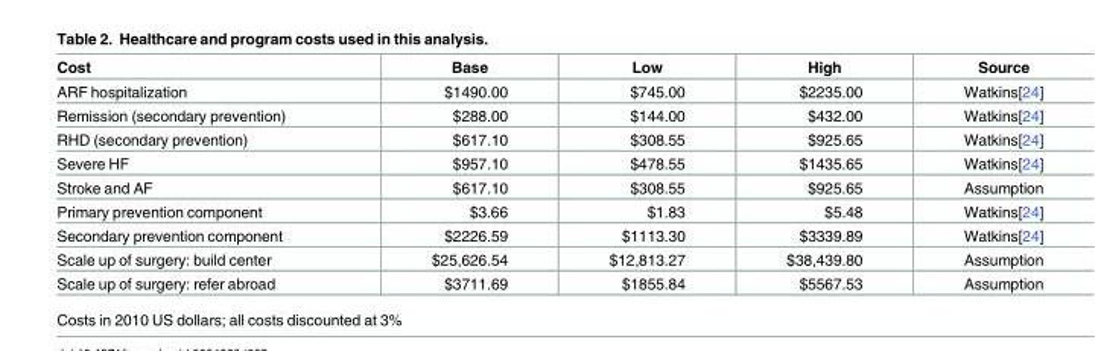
<table><thead><tr><td>Cost</td><td>Base</td><td>Low</td><td>High</td><td>Source</td></tr></thead><tbody><tr><td>ARF hospitalization</td><td>$1490.00</td><td>$745.00</td><td>$2235.00</td><td>Watkins[24]</td></tr><tr><td>Remission (secondary prevention)</td><td>$288.00</td><td>$144.00</td><td>$432.00</td><td>Watkins[24]</td></tr><tr><td>RHD (secondary prevention)</td><td>$617.10</td><td>$308.55</td><td>$925.65</td><td>Watkins[24]</td></tr><tr><td>Severe HF</td><td>$957.10</td><td>$478.55</td><td>$1435.65</td><td>Watkins[24]</td></tr><tr><td>Stroke and AF</td><td>$617.10</td><td>$308.55</td><td>$925.65</td><td>Assumption</td></tr><tr><td>Primary prevention component</td><td>$3.66</td><td>$1.83</td><td>$5.48</td><td>Watkins[24]</td></tr><tr><td>Secondary prevention component</td><td>$2226.59</td><td>$1113.30</td><td>$3339.89</td><td>Watkins[24]</td></tr><tr><td>Scale up of surgery: build center</td><td>$25,626.54</td><td>$12,813.27</td><td>$38,439.80</td><td>Assumption</td></tr><tr><td>Scale up of surgery: refer abroad</td><td>$3711.69</td><td>$1855.84</td><td>$5567.53</td><td>Assumption</td></tr></tbody></table>